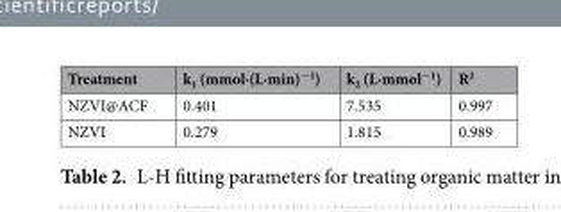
<table><thead><tr><td>Treatment</td><td>k<sub>1</sub> (mmol·(L·min)<sup>−1</sup>)</td><td>k<sub>2</sub> (L·mmol<sup>−1</sup>)</td><td>R<sup>2</sup></td></tr></thead><tbody><tr><td>NZVI@ACF</td><td>0.401</td><td>7.535</td><td>0.997</td></tr><tr><td>NZVI</td><td>0.279</td><td>1.815</td><td>0.989</td></tr></tbody></table>